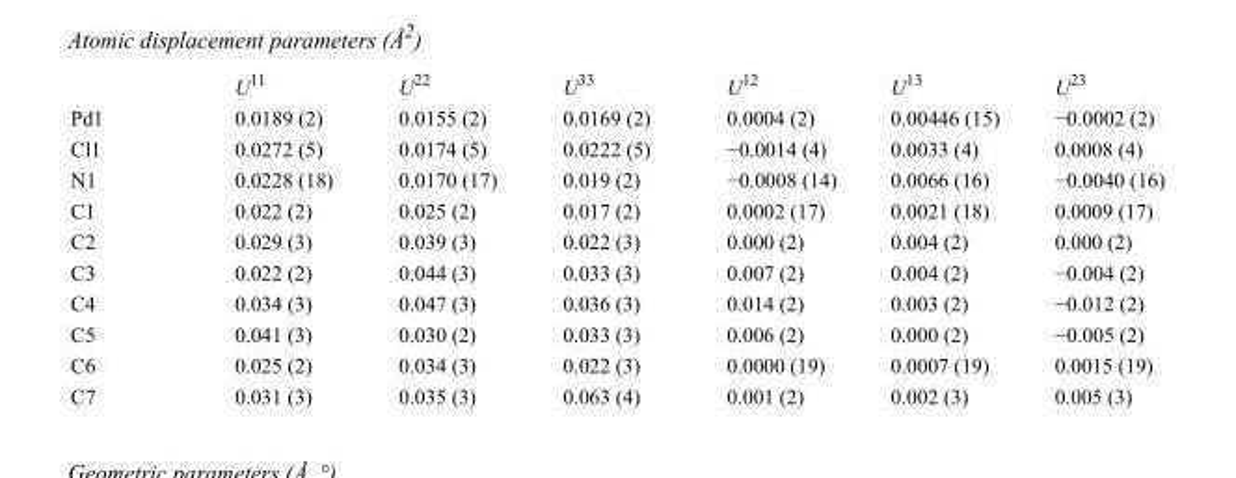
<table><thead><tr><td></td><td>U<sup>11</sup></td><td>U<sup>22</sup></td><td>U<sup>33</sup></td><td>U<sup>12</sup></td><td>U<sup>13</sup></td><td>U<sup>23</sup></td></tr></thead><tbody><tr><td>Pd1</td><td>0.0189 (2)</td><td>0.0155 (2)</td><td>0.0169 (2)</td><td>0.0004 (2)</td><td>0.00446 (15)</td><td>−0.0002 (2)</td></tr><tr><td>Cl1</td><td>0.0272 (5)</td><td>0.0174 (5)</td><td>0.0222 (5)</td><td>−0.0014 (4)</td><td>0.0033 (4)</td><td>0.0008 (4)</td></tr><tr><td>N1</td><td>0.0228 (18)</td><td>0.0170 (17)</td><td>0.019 (2)</td><td>−0.0008 (14)</td><td>0.0066 (16)</td><td>−0.0040 (16)</td></tr><tr><td>C1</td><td>0.022 (2)</td><td>0.025 (2)</td><td>0.017 (2)</td><td>0.0002 (17)</td><td>0.0021 (18)</td><td>0.0009 (17)</td></tr><tr><td>C2</td><td>0.029 (3)</td><td>0.039 (3)</td><td>0.022 (3)</td><td>0.000 (2)</td><td>0.004 (2)</td><td>0.000 (2)</td></tr><tr><td>C3</td><td>0.022 (2)</td><td>0.044 (3)</td><td>0.033 (3)</td><td>0.007 (2)</td><td>0.004 (2)</td><td>−0.004 (2)</td></tr><tr><td>C4</td><td>0.034 (3)</td><td>0.047 (3)</td><td>0.036 (3)</td><td>0.014 (2)</td><td>0.003 (2)</td><td>−0.012 (2)</td></tr><tr><td>C5</td><td>0.041 (3)</td><td>0.030 (2)</td><td>0.033 (3)</td><td>0.006 (2)</td><td>0.000 (2)</td><td>−0.005 (2)</td></tr><tr><td>C6</td><td>0.025 (2)</td><td>0.034 (3)</td><td>0.022 (3)</td><td>0.0000 (19)</td><td>0.0007 (19)</td><td>0.0015 (19)</td></tr><tr><td>C7</td><td>0.031 (3)</td><td>0.035 (3)</td><td>0.063 (4)</td><td>0.001 (2)</td><td>0.002 (3)</td><td>0.005 (3)</td></tr></tbody></table>